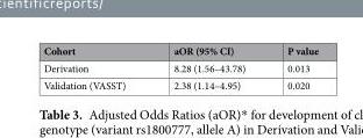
<table><thead><tr><td>Cohort</td><td>aOR (95% CI)</td><td>P value</td></tr></thead><tbody><tr><td>Derivation</td><td>8.28 (1.56–43.78)</td><td>0.013</td></tr><tr><td>Validation (VASST)</td><td>2.38 (1.14–4.95)</td><td>0.020</td></tr></tbody></table>